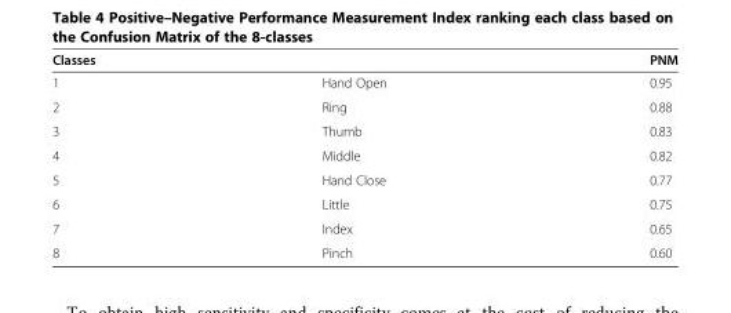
<table><thead><tr><td colspan="2">Classes</td><td rowspan="2">PNM 0.95</td></tr><tr><td>1</td><td>Hand Open</td></tr></thead><tbody><tr><td>2</td><td>Ring</td><td>0.88</td></tr><tr><td>3</td><td>Thumb</td><td>0.83</td></tr><tr><td>4</td><td>Middle</td><td>0.82</td></tr><tr><td>5</td><td>Hand Close</td><td>0.77</td></tr><tr><td>6</td><td>Little</td><td>0.75</td></tr><tr><td>7</td><td>Index</td><td>0.65</td></tr><tr><td>8</td><td>Pinch</td><td>0.60</td></tr></tbody></table>